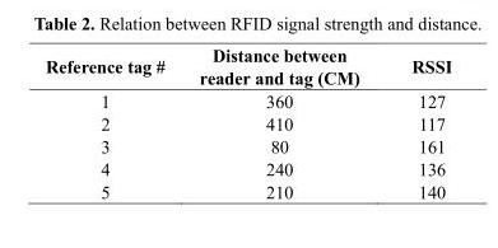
<table><thead><tr><td>Reference tag #</td><td>Distance between reader and tag (CM)</td><td>RSSI</td></tr></thead><tbody><tr><td>1</td><td>360</td><td>127</td></tr><tr><td>2</td><td>410</td><td>117</td></tr><tr><td>3</td><td>80</td><td>161</td></tr><tr><td>4</td><td>240</td><td>136</td></tr><tr><td>5</td><td>210</td><td>140</td></tr></tbody></table>